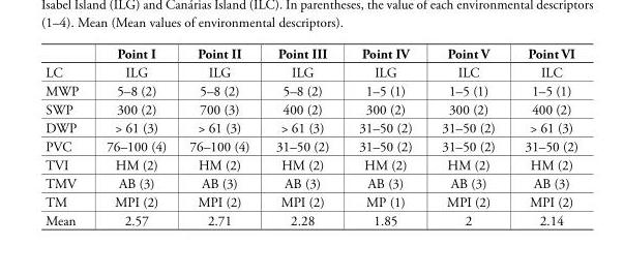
<table><thead><tr><td></td><td>Point I</td><td>Point II</td><td>Point III</td><td>Point IV</td><td>Point V</td><td>Point VI</td></tr></thead><tbody><tr><td>LC</td><td>ILG</td><td>ILG</td><td>ILG</td><td>ILG</td><td>ILC</td><td>ILC</td></tr><tr><td>MWP</td><td>5–8 (2)</td><td>5–8 (2)</td><td>5–8 (2)</td><td>1–5 (1)</td><td>1–5 (1)</td><td>1–5 (1)</td></tr><tr><td>SWP</td><td>300 (2)</td><td>700 (3)</td><td>400 (2)</td><td>300 (2)</td><td>300 (2)</td><td>400 (2)</td></tr><tr><td>DWP</td><td>&gt; 61 (3)</td><td>&gt; 61 (3)</td><td>&gt; 61 (3)</td><td>31–50 (2)</td><td>31–50 (2)</td><td>&gt; 61 (3)</td></tr><tr><td>PVC</td><td>76–100 (4)</td><td>76–100 (4)</td><td>31–50 (2)</td><td>31–50 (2)</td><td>31–50 (2)</td><td>31–50 (2)</td></tr><tr><td>TVI</td><td>HM (2)</td><td>HM (2)</td><td>HM (2)</td><td>HM (2)</td><td>HM (2)</td><td>HM (2)</td></tr><tr><td>TMV</td><td>AB (3)</td><td>AB (3)</td><td>AB (3)</td><td>AB (3)</td><td>AB (3)</td><td>AB (3)</td></tr><tr><td>TM</td><td>MPI (2)</td><td>MPI (2)</td><td>MPI (2)</td><td>MP (1)</td><td>MPI (2)</td><td>MPI (2)</td></tr><tr><td>Mean</td><td>2.57</td><td>2.71</td><td>2.28</td><td>1.85</td><td>2</td><td>2.14</td></tr></tbody></table>